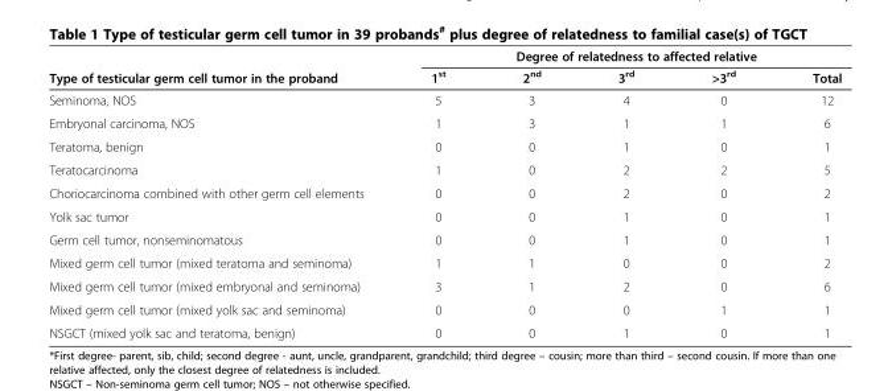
<table><thead><tr><td rowspan="2">Type of testicular germ cell tumor in the proband</td><td colspan="5">Degree of relatedness to affected relative</td></tr><tr><td>1<sup>st</sup></td><td>2<sup>nd</sup></td><td>3<sup>rd</sup></td><td>&gt;3<sup>rd</sup></td><td>Total</td></tr></thead><tbody><tr><td>Seminoma, NOS</td><td>5</td><td>3</td><td>4</td><td>0</td><td>12</td></tr><tr><td>Embryonal carcinoma, NOS</td><td>1</td><td>3</td><td>1</td><td>1</td><td>6</td></tr><tr><td>Teratoma, benign</td><td>0</td><td>0</td><td>1</td><td>0</td><td>1</td></tr><tr><td>Teratocarcinoma</td><td>1</td><td>0</td><td>2</td><td>2</td><td>5</td></tr><tr><td>Choriocarcinoma combined with other germ cell elements</td><td>0</td><td>0</td><td>2</td><td>0</td><td>2</td></tr><tr><td>Yolk sac tumor</td><td>0</td><td>0</td><td>1</td><td>0</td><td>1</td></tr><tr><td>Germ cell tumor, nonseminomatous</td><td>0</td><td>0</td><td>1</td><td>0</td><td>1</td></tr><tr><td>Mixed germ cell tumor (mixed teratoma and seminoma)</td><td>1</td><td>1</td><td>0</td><td>0</td><td>2</td></tr><tr><td>Mixed germ cell tumor (mixed embryonal and seminoma)</td><td>3</td><td>1</td><td>2</td><td>0</td><td>6</td></tr><tr><td>Mixed germ cell tumor (mixed yolk sac and seminoma)</td><td>0</td><td>0</td><td>0</td><td>1</td><td>1</td></tr><tr><td>NSGCT (mixed yolk sac and teratoma, benign)</td><td>0</td><td>0</td><td>1</td><td>0</td><td>1</td></tr></tbody></table>